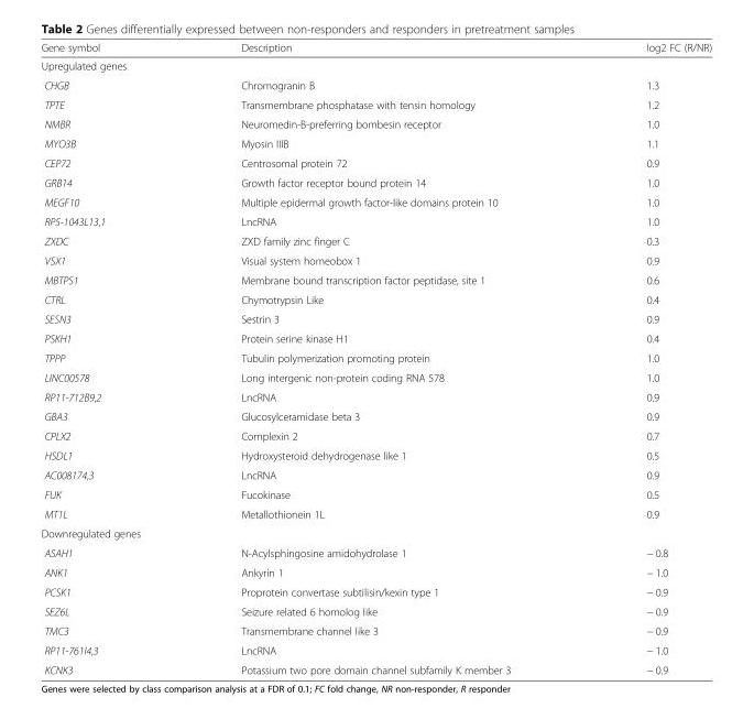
<table><thead><tr><td>Gene symbol</td><td>Description</td><td>log2 FC (R/NR)</td></tr></thead><tbody><tr><td colspan="3">Upregulated genes</td></tr><tr><td>CHGB</td><td>Chromogranin B</td><td>1.3</td></tr><tr><td>TPTE</td><td>Transmembrane phosphatase with tensin homology</td><td>1.2</td></tr><tr><td>NMBR</td><td>Neuromedin-B-preferring bombesin receptor</td><td>1.0</td></tr><tr><td>MYO3B</td><td>Myosin IIIB</td><td>1.1</td></tr><tr><td>CEP72</td><td>Centrosomal protein 72</td><td>0.9</td></tr><tr><td>GRB14</td><td>Growth factor receptor bound protein 14</td><td>1.0</td></tr><tr><td>MEGF10</td><td>Multiple epidermal growth factor-like domains protein 10</td><td>1.0</td></tr><tr><td>RP5-1043L13,1</td><td>LncRNA</td><td>1.0</td></tr><tr><td>ZXDC</td><td>ZXD family zinc finger C</td><td>0.3</td></tr><tr><td>VSX1</td><td>Visual system homeobox 1</td><td>0.9</td></tr><tr><td>MBTPS1</td><td>Membrane bound transcription factor peptidase, site 1</td><td>0.6</td></tr><tr><td>CTRL</td><td>Chymotrypsin Like</td><td>0.4</td></tr><tr><td>SESN3</td><td>Sestrin 3</td><td>0.9</td></tr><tr><td>PSKH1</td><td>Protein serine kinase H1</td><td>0.4</td></tr><tr><td>TPPP</td><td>Tubulin polymerization promoting protein</td><td>1.0</td></tr><tr><td>LINC00578</td><td>Long intergenic non-protein coding RNA 578</td><td>1.0</td></tr><tr><td>RP11-712B9,2</td><td>LncRNA</td><td>0.9</td></tr><tr><td>GBA3</td><td>Glucosylceramidase beta 3</td><td>0.9</td></tr><tr><td>CPLX2</td><td>Complexin 2</td><td>0.7</td></tr><tr><td>HSDL1</td><td>Hydroxysteroid dehydrogenase like 1</td><td>0.5</td></tr><tr><td>AC008174,3</td><td>LncRNA</td><td>0.9</td></tr><tr><td>FUK</td><td>Fucokinase</td><td>0.5</td></tr><tr><td>MT1L</td><td>Metallothionein 1L</td><td>0.9</td></tr><tr><td colspan="3">Downregulated genes</td></tr><tr><td>ASAH1</td><td>N-Acylsphingosine amidohydrolase 1</td><td>− 0.8</td></tr><tr><td>ANK1</td><td>Ankyrin 1</td><td>− 1.0</td></tr><tr><td>PCSK1</td><td>Proprotein convertase subtilisin/kexin type 1</td><td>− 0.9</td></tr><tr><td>SEZ6L</td><td>Seizure related 6 homolog like</td><td>− 0.9</td></tr><tr><td>TMC3</td><td>Transmembrane channel like 3</td><td>− 0.9</td></tr><tr><td>RP11-761I4,3</td><td>LncRNA</td><td>− 1.0</td></tr><tr><td>KCNK3</td><td>Potassium two pore domain channel subfamily K member 3</td><td>− 0.9</td></tr></tbody></table>